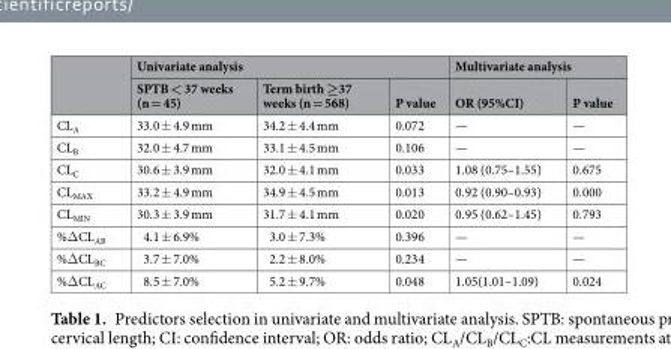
<table><thead><tr><td rowspan="2"></td><td colspan="3">Univariate analysis</td><td colspan="2">Multivariate analysis</td></tr><tr><td>SPTB &lt; 37 weeks (n = 45)</td><td>Term birth ≥37 weeks (n = 568)</td><td>P value</td><td>OR (95%CI)</td><td>P value</td></tr></thead><tbody><tr><td>CL<sub>A</sub></td><td>33.0 ± 4.9 mm</td><td>34.2 ± 4.4 mm</td><td>0.072</td><td>—</td><td>—</td></tr><tr><td>CL<sub>B</sub></td><td>32.0 ± 4.7 mm</td><td>33.1 ± 4.5 mm</td><td>0.106</td><td>—</td><td>—</td></tr><tr><td>CL<sub>C</sub></td><td>30.6 ± 3.9 mm</td><td>32.0 ± 4.1 mm</td><td>0.033</td><td>1.08 (0.75–1.55)</td><td>0.675</td></tr><tr><td>CL<sub>MAX</sub></td><td>33.2 ± 4.9 mm</td><td>34.9 ± 4.5 mm</td><td>0.013</td><td>0.92 (0.90–0.93)</td><td>0.000</td></tr><tr><td>CL<sub>MIN</sub></td><td>30.3 ± 3.9 mm</td><td>31.7 ± 4.1 mm</td><td>0.020</td><td>0.95 (0.62–1.45)</td><td>0.793</td></tr><tr><td>%ΔCL<sub>AB</sub></td><td>4.1 ± 6.9%</td><td>3.0 ± 7.3%</td><td>0.396</td><td>—</td><td>—</td></tr><tr><td>%ΔCL<sub>BC</sub></td><td>3.7 ± 7.0%</td><td>2.2 ± 8.0%</td><td>0.234</td><td>—</td><td>—</td></tr><tr><td>%ΔCL<sub>AC</sub></td><td>8.5 ± 7.0%</td><td>5.2 ± 9.7%</td><td>0.048</td><td>1.05(1.01–1.09)</td><td>0.024</td></tr></tbody></table>